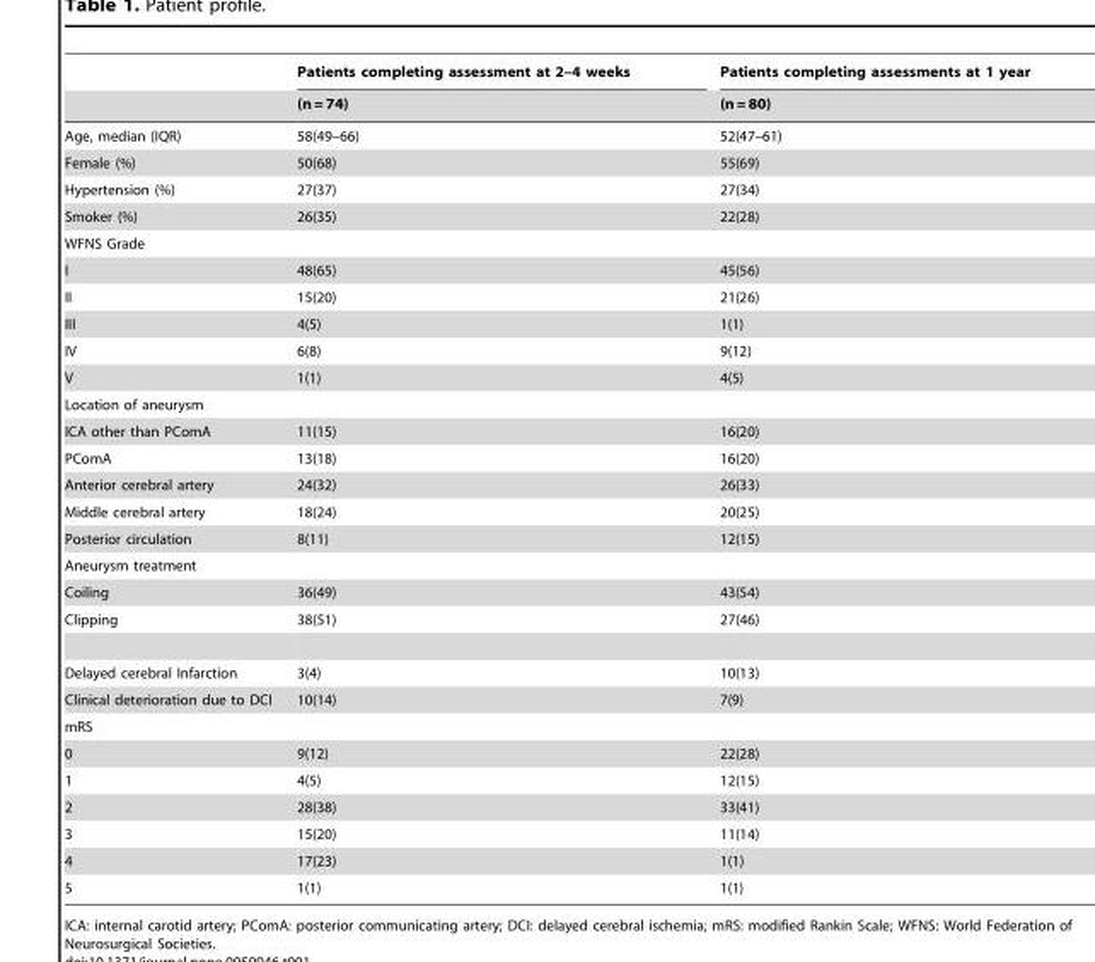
<table><thead><tr><td rowspan="2"></td><td rowspan="2">Patients completing assessment at 2–4 weeks (n = 74)</td><td rowspan="2">Patients completing assessments at 1 year (n = 80)</td></tr><tr></tr></thead><tbody><tr><td>Age, median (IQR)</td><td>58(49–66)</td><td>52(47–61)</td></tr><tr><td>Female (%)</td><td>50(68)</td><td>55(69)</td></tr><tr><td>Hypertension (%)</td><td>27(37)</td><td>27(34)</td></tr><tr><td>Smoker (%)</td><td>26(35)</td><td>22(28)</td></tr><tr><td colspan="3">WFNS Grade</td></tr><tr><td>I</td><td>48(65)</td><td>45(56)</td></tr><tr><td>II</td><td>15(20)</td><td>21(26)</td></tr><tr><td>III</td><td>4(5)</td><td>1(1)</td></tr><tr><td>IV</td><td>6(8)</td><td>9(12)</td></tr><tr><td>V</td><td>1(1)</td><td>4(5)</td></tr><tr><td colspan="3">Location of aneurysm</td></tr><tr><td>ICA other than PComA</td><td>11(15)</td><td>16(20)</td></tr><tr><td>PComA</td><td>13(18)</td><td>16(20)</td></tr><tr><td>Anterior cerebral artery</td><td>24(32)</td><td>26(33)</td></tr><tr><td>Middle cerebral artery</td><td>18(24)</td><td>20(25)</td></tr><tr><td>Posterior circulation</td><td>8(11)</td><td>12(15)</td></tr><tr><td colspan="3">Aneurysm treatment</td></tr><tr><td>Coiling</td><td>36(49)</td><td>43(54)</td></tr><tr><td>Clipping</td><td>38(51)</td><td>27(46)</td></tr><tr><td>Delayed cerebral Infarction</td><td>3(4)</td><td>10(13)</td></tr><tr><td>Clinical deterioration due to DCI</td><td>10(14)</td><td>7(9)</td></tr><tr><td colspan="3">mRS</td></tr><tr><td>0</td><td>9(12)</td><td>22(28)</td></tr><tr><td>1</td><td>4(5)</td><td>12(15)</td></tr><tr><td>2</td><td>28(38)</td><td>33(41)</td></tr><tr><td>3</td><td>15(20)</td><td>11(14)</td></tr><tr><td>4</td><td>17(23)</td><td>1(1)</td></tr><tr><td>5</td><td>1(1)</td><td>1(1)</td></tr></tbody></table>